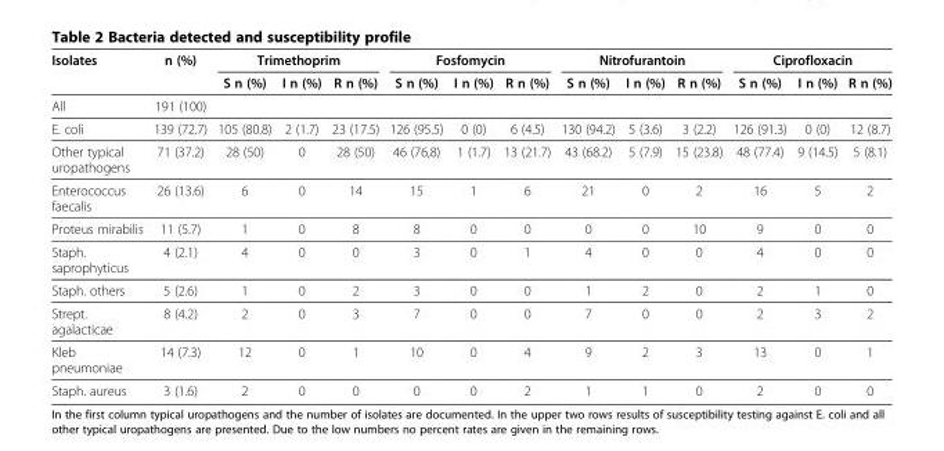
<table><thead><tr><td rowspan="2">Isolates</td><td rowspan="2">n (%)</td><td colspan="3">Trimethoprim</td><td colspan="3">Fosfomycin</td><td colspan="3">Nitrofurantoin</td><td colspan="3">Ciprofloxacin</td></tr><tr><td>S n (%)</td><td>I n (%)</td><td>R n (%)</td><td>S n (%)</td><td>I n (%)</td><td>R n (%)</td><td>S n (%)</td><td>I n (%)</td><td>R n (%)</td><td>S n (%)</td><td>I n (%)</td><td>R n (%)</td></tr></thead><tbody><tr><td>All</td><td>191 (100)</td><td></td><td></td><td></td><td></td><td></td><td></td><td></td><td></td><td></td><td></td><td></td><td></td></tr><tr><td>E. coli</td><td>139 (72.7)</td><td>105 (80.8)</td><td>2 (1.7)</td><td>23 (17.5)</td><td>126 (95.5)</td><td>0 (0)</td><td>6 (4.5)</td><td>130 (94.2)</td><td>5 (3.6)</td><td>3 (2.2)</td><td>126 (91.3)</td><td>0 (0)</td><td>12 (8.7)</td></tr><tr><td>Other typical uropathogens</td><td>71 (37.2)</td><td>28 (50)</td><td>0</td><td>28 (50)</td><td>46 (76,8)</td><td>1 (1.7)</td><td>13 (21.7)</td><td>43 (68.2)</td><td>5 (7.9)</td><td>15 (23.8)</td><td>48 (77.4)</td><td>9 (14.5)</td><td>5 (8.1)</td></tr><tr><td>Enterococcus faecalis</td><td>26 (13.6)</td><td>6</td><td>0</td><td>14</td><td>15</td><td>1</td><td>6</td><td>21</td><td>0</td><td>2</td><td>16</td><td>5</td><td>2</td></tr><tr><td>Proteus mirabilis</td><td>11 (5.7)</td><td>1</td><td>0</td><td>8</td><td>8</td><td>0</td><td>0</td><td>0</td><td>0</td><td>10</td><td>9</td><td>0</td><td>0</td></tr><tr><td>Staph. saprophyticus</td><td>4 (2.1)</td><td>4</td><td>0</td><td>0</td><td>3</td><td>0</td><td>1</td><td>4</td><td>0</td><td>0</td><td>4</td><td>0</td><td>0</td></tr><tr><td>Staph. others</td><td>5 (2.6)</td><td>1</td><td>0</td><td>2</td><td>3</td><td>0</td><td>0</td><td>1</td><td>2</td><td>0</td><td>2</td><td>1</td><td>0</td></tr><tr><td>Strept. agalacticae</td><td>8 (4.2)</td><td>2</td><td>0</td><td>3</td><td>7</td><td>0</td><td>0</td><td>7</td><td>0</td><td>0</td><td>2</td><td>3</td><td>2</td></tr><tr><td>Kleb pneumoniae</td><td>14 (7.3)</td><td>12</td><td>0</td><td>1</td><td>10</td><td>0</td><td>4</td><td>9</td><td>2</td><td>3</td><td>13</td><td>0</td><td>1</td></tr><tr><td>Staph. aureus</td><td>3 (1.6)</td><td>2</td><td>0</td><td>0</td><td>0</td><td>0</td><td>2</td><td>1</td><td>1</td><td>0</td><td>2</td><td>0</td><td>0</td></tr></tbody></table>